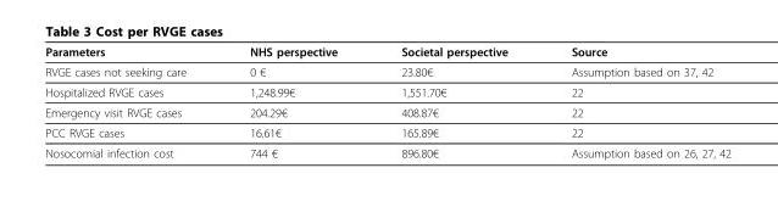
<table><thead><tr><td>Parameters</td><td>NHS perspective</td><td>Societal perspective</td><td>Source</td></tr></thead><tbody><tr><td>RVGE cases not seeking care</td><td>0 €</td><td>23.80€</td><td>Assumption based on 37, 42</td></tr><tr><td>Hospitalized RVGE cases</td><td>1,248.99€</td><td>1,551.70€</td><td>22</td></tr><tr><td>Emergency visit RVGE cases</td><td>204.29€</td><td>408.87€</td><td>22</td></tr><tr><td>PCC RVGE cases</td><td>16.61€</td><td>165.89€</td><td>22</td></tr><tr><td>Nosocomial infection cost</td><td>744 €</td><td>896.80€</td><td>Assumption based on 26, 27, 42</td></tr></tbody></table>